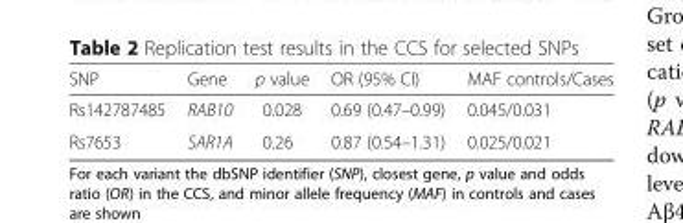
<table><thead><tr><td>SNP</td><td>Gene</td><td>p value</td><td>OR (95% CI)</td><td>MAF controls/Cases</td></tr></thead><tbody><tr><td>Rs142787485</td><td>RAB10</td><td>0.028</td><td>0.69 (0.47–0.99)</td><td>0.045/0.031</td></tr><tr><td>Rs7653</td><td>SAR1A</td><td>0.26</td><td>0.87 (0.54–1.31)</td><td>0.025/0.021</td></tr></tbody></table>